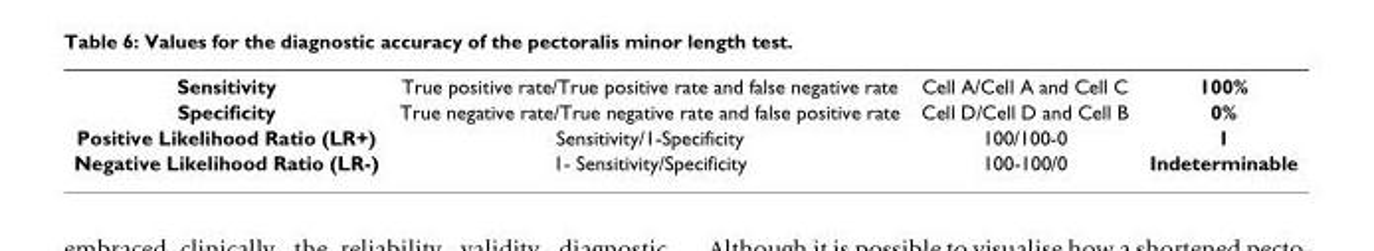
<table><tbody><tr><td>Sensitivity</td><td>True positive rate/True positive rate and false negative rate</td><td>Cell A/Cell A and Cell C</td><td>100%</td></tr><tr><td>Specificity</td><td>True negative rate/True negative rate and false positive rate</td><td>Cell D/Cell D and Cell B</td><td>0%</td></tr><tr><td>Positive Likelihood Ratio (LR+)</td><td>Sensitivity/1-Specificity</td><td>100/100-0</td><td>1</td></tr><tr><td>Negative Likelihood Ratio (LR-)</td><td>1- Sensitivity/Specificity</td><td>100-100/0</td><td>Indeterminable</td></tr></tbody></table>